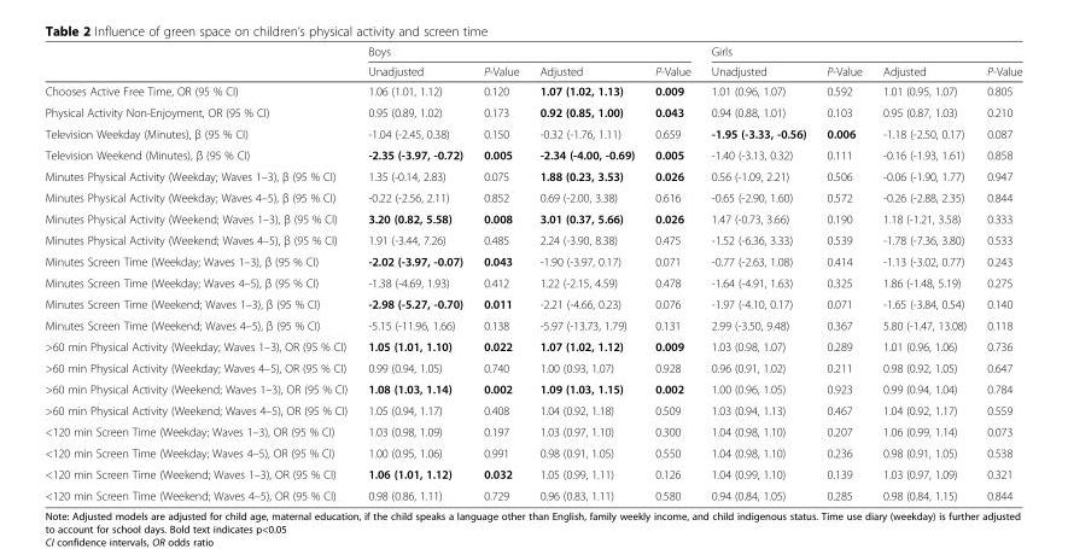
<table><thead><tr><td rowspan="2"></td><td colspan="4">Boys</td><td colspan="4">Girls</td></tr><tr><td>Unadjusted</td><td>P-Value</td><td>Adjusted</td><td>P-Value</td><td>Unadjusted</td><td>P-Value</td><td>Adjusted</td><td>P-Value</td></tr></thead><tbody><tr><td>Chooses Active Free Time, OR (95 % CI)</td><td>1.06 (1.01, 1.12)</td><td>0.120</td><td>1.07 (1.02, 1.13)</td><td>0.009</td><td>1.01 (0.96, 1.07)</td><td>0.592</td><td>1.01 (0.95, 1.07)</td><td>0.805</td></tr><tr><td>Physical Activity Non-Enjoyment, OR (95 % CI)</td><td>0.95 (0.89, 1.02)</td><td>0.173</td><td>0.92 (0.85, 1.00)</td><td>0.043</td><td>0.94 (0.88, 1.01)</td><td>0.103</td><td>0.95 (0.87, 1.03)</td><td>0.210</td></tr><tr><td>Television Weekday (Minutes), β (95 % CI)</td><td>-1.04 (-2.45, 0.38)</td><td>0.150</td><td>-0.32 (-1.76, 1.11)</td><td>0.659</td><td>-1.95 (-3.33, -0.56)</td><td>0.006</td><td>-1.18 (-2.50, 0.17)</td><td>0.087</td></tr><tr><td>Television Weekend (Minutes), β (95 % CI)</td><td>-2.35 (-3.97, -0.72)</td><td>0.005</td><td>-2.34 (-4.00, -0.69)</td><td>0.005</td><td>-1.40 (-3.13, 0.32)</td><td>0.111</td><td>-0.16 (-1.93, 1.61)</td><td>0.858</td></tr><tr><td>Minutes Physical Activity (Weekday; Waves 1–3), β (95 % CI)</td><td>1.35 (-0.14, 2.83)</td><td>0.075</td><td>1.88 (0.23, 3.53)</td><td>0.026</td><td>0.56 (-1.09, 2.21)</td><td>0.506</td><td>-0.06 (-1.90, 1.77)</td><td>0.947</td></tr><tr><td>Minutes Physical Activity (Weekday; Waves 4–5), β (95 % CI)</td><td>-0.22 (-2.56, 2.11)</td><td>0.852</td><td>0.69 (-2.00, 3.38)</td><td>0.616</td><td>-0.65 (-2.90, 1.60)</td><td>0.572</td><td>-0.26 (-2.88, 2.35)</td><td>0.844</td></tr><tr><td>Minutes Physical Activity (Weekend; Waves 1–3), β (95 % CI)</td><td>3.20 (0.82, 5.58)</td><td>0.008</td><td>3.01 (0.37, 5.66)</td><td>0.026</td><td>1.47 (-0.73, 3.66)</td><td>0.190</td><td>1.18 (-1.21, 3.58)</td><td>0.333</td></tr><tr><td>Minutes Physical Activity (Weekend; Waves 4–5), β (95 % CI)</td><td>1.91 (-3.44, 7.26)</td><td>0.485</td><td>2.24 (-3.90, 8.38)</td><td>0.475</td><td>-1.52 (-6.36, 3.33)</td><td>0.539</td><td>-1.78 (-7.36, 3.80)</td><td>0.533</td></tr><tr><td>Minutes Screen Time (Weekday; Waves 1–3), β (95 % CI)</td><td>-2.02 (-3.97, -0.07)</td><td>0.043</td><td>-1.90 (-3.97, 0.17)</td><td>0.071</td><td>-0.77 (-2.63, 1.08)</td><td>0.414</td><td>-1.13 (-3.02, 0.77)</td><td>0.243</td></tr><tr><td>Minutes Screen Time (Weekday; Waves 4–5), β (95 % CI)</td><td>-1.38 (-4.69, 1.93)</td><td>0.412</td><td>1.22 (-2.15, 4.59)</td><td>0.478</td><td>-1.64 (-4.91, 1.63)</td><td>0.325</td><td>1.86 (-1.48, 5.19)</td><td>0.275</td></tr><tr><td>Minutes Screen Time (Weekend; Waves 1–3), β (95 % CI)</td><td>-2.98 (-5.27, -0.70)</td><td>0.011</td><td>-2.21 (-4.66, 0.23)</td><td>0.076</td><td>-1.97 (-4.10, 0.17)</td><td>0.071</td><td>-1.65 (-3.84, 0.54)</td><td>0.140</td></tr><tr><td>Minutes Screen Time (Weekend; Waves 4–5), β (95 % CI)</td><td>-5.15 (-11.96, 1.66)</td><td>0.138</td><td>-5.97 (-13.73, 1.79)</td><td>0.131</td><td>2.99 (-3.50, 9.48)</td><td>0.367</td><td>5.80 (-1.47, 13.08)</td><td>0.118</td></tr><tr><td>&gt;60 min Physical Activity (Weekday; Waves 1–3), OR (95 % CI)</td><td>1.05 (1.01, 1.10)</td><td>0.022</td><td>1.07 (1.02, 1.12)</td><td>0.009</td><td>1.03 (0.98, 1.07)</td><td>0.289</td><td>1.01 (0.96, 1.06)</td><td>0.736</td></tr><tr><td>&gt;60 min Physical Activity (Weekday; Waves 4–5), OR (95 % CI)</td><td>0.99 (0.94, 1.05)</td><td>0.740</td><td>1.00 (0.93, 1.07)</td><td>0.928</td><td>0.96 (0.91, 1.02)</td><td>0.211</td><td>0.98 (0.92, 1.05)</td><td>0.647</td></tr><tr><td>&gt;60 min Physical Activity (Weekend; Waves 1–3), OR (95 % CI)</td><td>1.08 (1.03, 1.14)</td><td>0.002</td><td>1.09 (1.03, 1.15)</td><td>0.002</td><td>1.00 (0.96, 1.05)</td><td>0.923</td><td>0.99 (0.94, 1.04)</td><td>0.784</td></tr><tr><td>&gt;60 min Physical Activity (Weekend; Waves 4–5), OR (95 % CI)</td><td>1.05 (0.94, 1.17)</td><td>0.408</td><td>1.04 (0.92, 1.18)</td><td>0.509</td><td>1.03 (0.94, 1.13)</td><td>0.467</td><td>1.04 (0.92, 1.17)</td><td>0.559</td></tr><tr><td>&lt;120 min Screen Time (Weekday; Waves 1–3), OR (95 % CI)</td><td>1.03 (0.98, 1.09)</td><td>0.197</td><td>1.03 (0.97, 1.10)</td><td>0.300</td><td>1.04 (0.98, 1.10)</td><td>0.207</td><td>1.06 (0.99, 1.14)</td><td>0.073</td></tr><tr><td>&lt;120 min Screen Time (Weekday; Waves 4–5), OR (95 % CI)</td><td>1.00 (0.95, 1.06)</td><td>0.991</td><td>0.98 (0.91, 1.05)</td><td>0.550</td><td>1.04 (0.98, 1.10)</td><td>0.236</td><td>0.98 (0.91, 1.05)</td><td>0.538</td></tr><tr><td>&lt;120 min Screen Time (Weekend; Waves 1–3), OR (95 % CI)</td><td>1.06 (1.01, 1.12)</td><td>0.032</td><td>1.05 (0.99, 1.11)</td><td>0.126</td><td>1.04 (0.99, 1.10)</td><td>0.139</td><td>1.03 (0.97, 1.09)</td><td>0.321</td></tr><tr><td>&lt;120 min Screen Time (Weekend; Waves 4–5), OR (95 % CI)</td><td>0.98 (0.86, 1.11)</td><td>0.729</td><td>0.96 (0.83, 1.11)</td><td>0.580</td><td>0.94 (0.84, 1.05)</td><td>0.285</td><td>0.98 (0.84, 1.15)</td><td>0.844</td></tr></tbody></table>